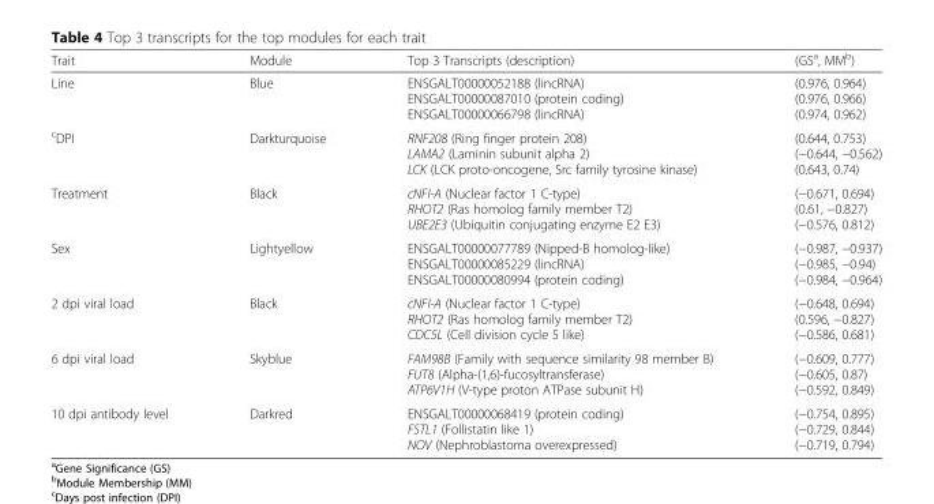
<table><thead><tr><td>Trait</td><td>Module</td><td>Top 3 Transcripts (description)</td><td>(GS<sup>a</sup>, MM<sup>b</sup>)</td></tr></thead><tbody><tr><td>Line</td><td>Blue</td><td>ENSGALT00000052188 (lincRNA) ENSGALT00000087010 (protein coding) ENSGALT00000066798 (lincRNA)</td><td>(0.976, 0.964) (0.976, 0.966) (0.974, 0.962)</td></tr><tr><td><sup>c</sup>DPI</td><td>Darkturquoise</td><td>RNF208 (Ring finger protein 208) LAMA2 (Laminin subunit alpha 2) LCK (LCK proto-oncogene, Src family tyrosine kinase)</td><td>(0.644, 0.753) (−0.644, −0.562) (0.643, 0.74)</td></tr><tr><td>Treatment</td><td>Black</td><td>cNFI-A (Nuclear factor 1 C-type) RHOT2 (Ras homolog family member T2) UBE2E3 (Ubiquitin conjugating enzyme E2 E3)</td><td>(−0.671, 0.694) (0.61, −0.827) (−0.576, 0.812)</td></tr><tr><td>Sex</td><td>Lightyellow</td><td>ENSGALT00000077789 (Nipped-B homolog-like) ENSGALT00000085229 (lincRNA) ENSGALT00000080994 (protein coding)</td><td>(−0.987, −0.937) (−0.985, −0.94) (−0.984, −0.964)</td></tr><tr><td>2 dpi viral load</td><td>Black</td><td>cNFI-A (Nuclear factor 1 C-type) RHOT2 (Ras homolog family member T2) CDC5L (Cell division cycle 5 like)</td><td>(−0.648, 0.694) (0.596, −0.827) (−0.586, 0.681)</td></tr><tr><td>6 dpi viral load</td><td>Skyblue</td><td>FAM98B (Family with sequence similarity 98 member B) FUT8 (Alpha-(1,6)-fucosyltransferase) ATP6V1H (V-type proton ATPase subunit H)</td><td>(−0.609, 0.777) (−0.605, 0.87) (−0.592, 0.849)</td></tr><tr><td>10 dpi antibody level</td><td>Darkred</td><td>ENSGALT00000068419 (protein coding) FSTL1 (Follistatin like 1) NOV (Nephroblastoma overexpressed)</td><td>(−0.754, 0.895) (−0.729, 0.844) (−0.719, 0.794)</td></tr></tbody></table>